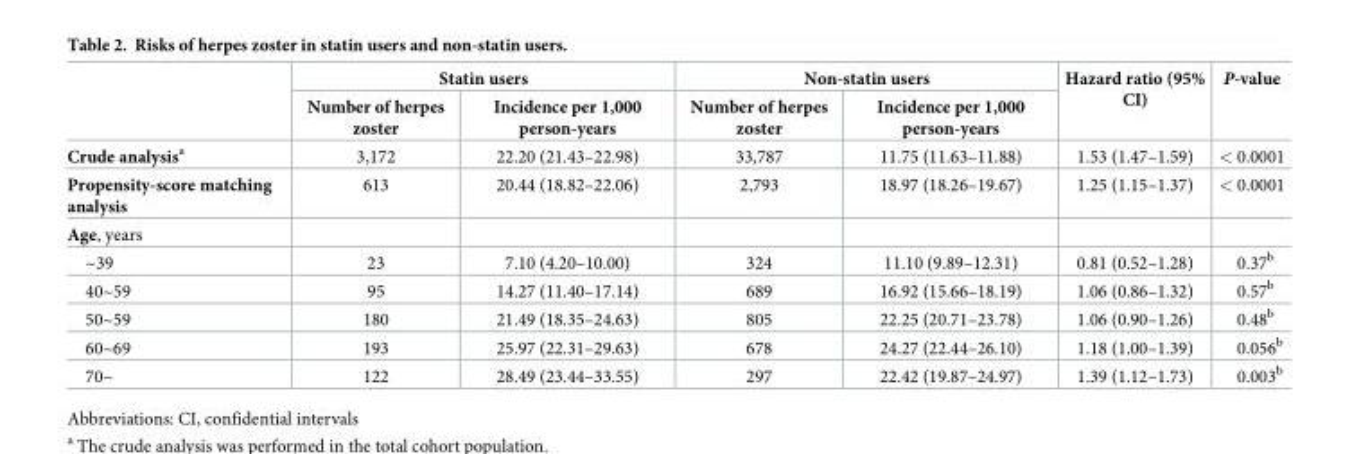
<table><thead><tr><td rowspan="2"></td><td colspan="2">Statin users</td><td colspan="2">Non-statin users</td><td rowspan="2">Hazard ratio (95% CI)</td><td rowspan="2">P-value</td></tr><tr><td>Number of herpes zoster</td><td>Incidence per 1,000 person-years</td><td>Number of herpes zoster</td><td>Incidence per 1,000 person-years</td></tr></thead><tbody><tr><td>Crude analysis<sup>a</sup></td><td>3,172</td><td>22.20 (21.43–22.98)</td><td>33,787</td><td>11.75 (11.63–11.88)</td><td>1.53 (1.47–1.59)</td><td>&lt; 0.0001</td></tr><tr><td>Propensity-score matching analysis</td><td>613</td><td>20.44 (18.82–22.06)</td><td>2,793</td><td>18.97 (18.26–19.67)</td><td>1.25 (1.15–1.37)</td><td>&lt; 0.0001</td></tr><tr><td colspan="7">Age, years</td></tr><tr><td>~39</td><td>23</td><td>7.10 (4.20–10.00)</td><td>324</td><td>11.10 (9.89–12.31)</td><td>0.81 (0.52–1.28)</td><td>0.37<sup>b</sup></td></tr><tr><td>40~59</td><td>95</td><td>14.27 (11.40–17.14)</td><td>689</td><td>16.92 (15.66–18.19)</td><td>1.06 (0.86–1.32)</td><td>0.57<sup>b</sup></td></tr><tr><td>50~59</td><td>180</td><td>21.49 (18.35–24.63)</td><td>805</td><td>22.25 (20.71–23.78)</td><td>1.06 (0.90–1.26)</td><td>0.48<sup>b</sup></td></tr><tr><td>60~69</td><td>193</td><td>25.97 (22.31–29.63)</td><td>678</td><td>24.27 (22.44–26.10)</td><td>1.18 (1.00–1.39)</td><td>0.056<sup>b</sup></td></tr><tr><td>70~</td><td>122</td><td>28.49 (23.44–33.55)</td><td>297</td><td>22.42 (19.87–24.97)</td><td>1.39 (1.12–1.73)</td><td>0.003<sup>b</sup></td></tr></tbody></table>